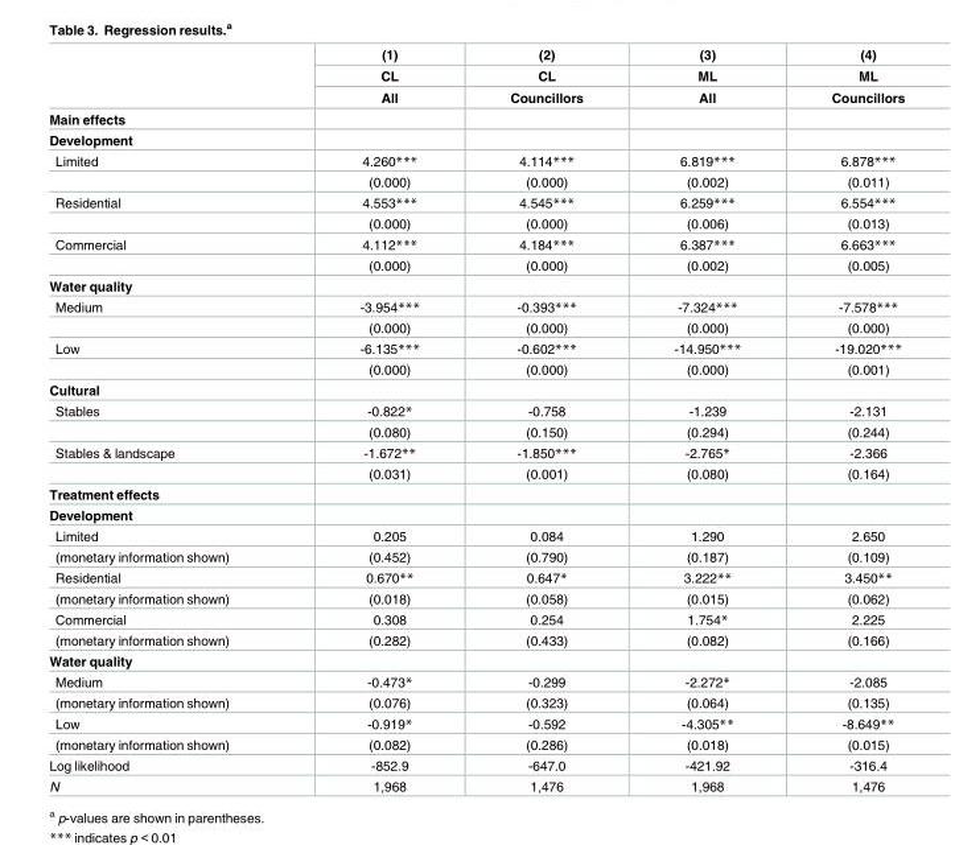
<table><thead><tr><td rowspan="3"></td><td rowspan="3">(1) CL All</td><td rowspan="3">(2) CL Councillors</td><td rowspan="3">(3) ML All</td><td rowspan="3">(4) ML Councillors</td></tr><tr></tr><tr></tr></thead><tbody><tr><td colspan="5">Main effects</td></tr><tr><td colspan="5">Development</td></tr><tr><td rowspan="2">Limited</td><td>4.260***</td><td>4.114***</td><td>6.819***</td><td>6.878***</td></tr><tr><td>(0.000)</td><td>(0.000)</td><td>(0.002)</td><td>(0.011)</td></tr><tr><td rowspan="2">Residential</td><td>4.553***</td><td>4.545***</td><td>6.259***</td><td>6.554***</td></tr><tr><td>(0.000)</td><td>(0.000)</td><td>(0.006)</td><td>(0.013)</td></tr><tr><td rowspan="2">Commercial</td><td>4.112***</td><td>4.184***</td><td>6.387***</td><td>6.663***</td></tr><tr><td>(0.000)</td><td>(0.000)</td><td>(0.002)</td><td>(0.005)</td></tr><tr><td colspan="5">Water quality</td></tr><tr><td rowspan="2">Medium</td><td>-3.954***</td><td>-0.393***</td><td>-7.324***</td><td>-7.578***</td></tr><tr><td>(0.000)</td><td>(0.000)</td><td>(0.000)</td><td>(0.000)</td></tr><tr><td rowspan="2">Low</td><td>-6.135***</td><td>-0.602***</td><td>-14.950***</td><td>-19.020***</td></tr><tr><td>(0.000)</td><td>(0.000)</td><td>(0.000)</td><td>(0.001)</td></tr><tr><td colspan="5">Cultural</td></tr><tr><td rowspan="2">Stables</td><td>-0.822*</td><td>-0.758</td><td>-1.239</td><td>-2.131</td></tr><tr><td>(0.080)</td><td>(0.150)</td><td>(0.294)</td><td>(0.244)</td></tr><tr><td rowspan="2">Stables &amp; landscape</td><td>-1.672**</td><td>-1.850***</td><td>-2.765*</td><td>-2.366</td></tr><tr><td>(0.031)</td><td>(0.001)</td><td>(0.080)</td><td>(0.164)</td></tr><tr><td colspan="5">Treatment effects</td></tr><tr><td colspan="5">Development</td></tr><tr><td>Limited</td><td>0.205</td><td>0.084</td><td>1.290</td><td>2.650</td></tr><tr><td>(monetary information shown)</td><td>(0.452)</td><td>(0.790)</td><td>(0.187)</td><td>(0.109)</td></tr><tr><td>Residential</td><td>0.670**</td><td>0.647*</td><td>3.222**</td><td>3.450**</td></tr><tr><td>(monetary information shown)</td><td>(0.018)</td><td>(0.058)</td><td>(0.015)</td><td>(0.062)</td></tr><tr><td>Commercial</td><td>0.308</td><td>0.254</td><td>1.754*</td><td>2.225</td></tr><tr><td>(monetary information shown)</td><td>(0.282)</td><td>(0.433)</td><td>(0.082)</td><td>(0.166)</td></tr><tr><td colspan="5">Water quality</td></tr><tr><td>Medium</td><td>-0.473*</td><td>-0.299</td><td>-2.272*</td><td>-2.085</td></tr><tr><td>(monetary information shown)</td><td>(0.076)</td><td>(0.323)</td><td>(0.064)</td><td>(0.135)</td></tr><tr><td>Low</td><td>-0.919*</td><td>-0.592</td><td>-4.305**</td><td>-8.649**</td></tr><tr><td>(monetary information shown)</td><td>(0.082)</td><td>(0.286)</td><td>(0.018)</td><td>(0.015)</td></tr><tr><td>Log likelihood</td><td>-852.9</td><td>-647.0</td><td>-421.92</td><td>-316.4</td></tr><tr><td>N</td><td>1,968</td><td>1,476</td><td>1,968</td><td>1,476</td></tr></tbody></table>